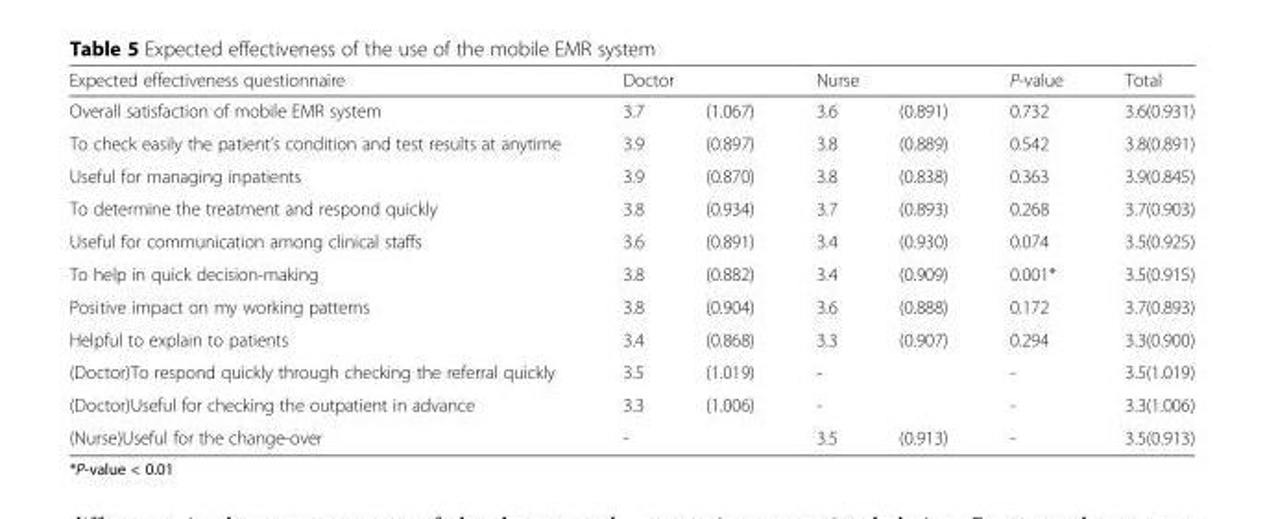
<table><thead><tr><td rowspan="2">Expected effectiveness questionnaire Overall satisfaction of mobile EMR system</td><td colspan="2">Doctor</td><td colspan="2">Nurse</td><td rowspan="2">P-value 0.732</td><td rowspan="2">Total 3.6(0.931)</td></tr><tr><td>3.7</td><td>(1.067)</td><td>3.6</td><td>(0.891)</td></tr></thead><tbody><tr><td>To check easily the patient’s condition and test results at anytime</td><td>3.9</td><td>(0.897)</td><td>3.8</td><td>(0.889)</td><td>0.542</td><td>3.8(0.891)</td></tr><tr><td>Useful for managing inpatients</td><td>3.9</td><td>(0.870)</td><td>3.8</td><td>(0.838)</td><td>0.363</td><td>3.9(0.845)</td></tr><tr><td>To determine the treatment and respond quickly</td><td>3.8</td><td>(0.934)</td><td>3.7</td><td>(0.893)</td><td>0.268</td><td>3.7(0.903)</td></tr><tr><td>Useful for communication among clinical staffs</td><td>3.6</td><td>(0.891)</td><td>3.4</td><td>(0.930)</td><td>0.074</td><td>3.5(0.925)</td></tr><tr><td>To help in quick decision-making</td><td>3.8</td><td>(0.882)</td><td>3.4</td><td>(0.909)</td><td>0.001*</td><td>3.5(0.915)</td></tr><tr><td>Positive impact on my working patterns</td><td>3.8</td><td>(0.904)</td><td>3.6</td><td>(0.888)</td><td>0.172</td><td>3.7(0.893)</td></tr><tr><td>Helpful to explain to patients</td><td>3.4</td><td>(0.868)</td><td>3.3</td><td>(0.907)</td><td>0.294</td><td>3.3(0.900)</td></tr><tr><td>(Doctor)To respond quickly through checking the referral quickly</td><td>3.5</td><td>(1.019)</td><td>-</td><td></td><td>-</td><td>3.5(1.019)</td></tr><tr><td>(Doctor)Useful for checking the outpatient in advance</td><td>3.3</td><td>(1.006)</td><td>-</td><td></td><td>-</td><td>3.3(1.006)</td></tr><tr><td>(Nurse)Useful for the change-over</td><td>-</td><td></td><td>3.5</td><td>(0.913)</td><td>-</td><td>3.5(0.913)</td></tr></tbody></table>